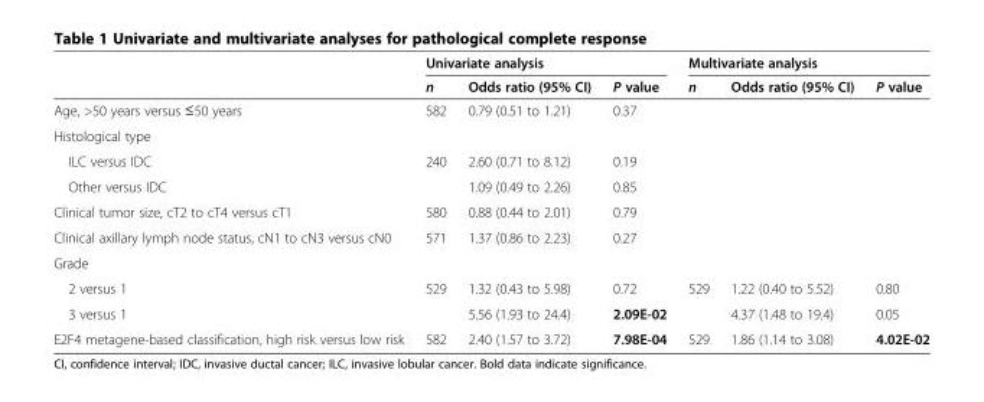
<table><thead><tr><td rowspan="2"></td><td colspan="3">Univariate analysis</td><td colspan="3">Multivariate analysis</td></tr><tr><td>n</td><td>Odds ratio (95% CI)</td><td>P value</td><td>n</td><td>Odds ratio (95% CI)</td><td>P value</td></tr></thead><tbody><tr><td>Age, &gt;50 years versus ≤50 years</td><td>582</td><td>0.79 (0.51 to 1.21)</td><td>0.37</td><td></td><td></td><td></td></tr><tr><td colspan="7">Histological type</td></tr><tr><td>ILC versus IDC</td><td>240</td><td>2.60 (0.71 to 8.12)</td><td>0.19</td><td></td><td></td><td></td></tr><tr><td>Other versus IDC</td><td></td><td>1.09 (0.49 to 2.26)</td><td>0.85</td><td></td><td></td><td></td></tr><tr><td>Clinical tumor size, cT2 to cT4 versus cT1</td><td>580</td><td>0.88 (0.44 to 2.01)</td><td>0.79</td><td></td><td></td><td></td></tr><tr><td>Clinical axillary lymph node status, cN1 to cN3 versus cN0</td><td>571</td><td>1.37 (0.86 to 2.23)</td><td>0.27</td><td></td><td></td><td></td></tr><tr><td colspan="7">Grade</td></tr><tr><td>2 versus 1</td><td>529</td><td>1.32 (0.43 to 5.98)</td><td>0.72</td><td>529</td><td>1.22 (0.40 to 5.52)</td><td>0.80</td></tr><tr><td>3 versus 1</td><td></td><td>5.56 (1.93 to 24.4)</td><td>2.09E-02</td><td></td><td>4.37 (1.48 to 19.4)</td><td>0.05</td></tr><tr><td>E2F4 metagene-based classification, high risk versus low risk</td><td>582</td><td>2.40 (1.57 to 3.72)</td><td>7.98E-04</td><td>529</td><td>1.86 (1.14 to 3.08)</td><td>4.02E-02</td></tr></tbody></table>